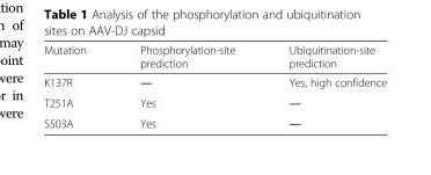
<table><thead><tr><td>Mutation</td><td>Phosphorylation-site prediction</td><td>Ubiquitination-site prediction</td></tr></thead><tbody><tr><td>K137R</td><td>―</td><td>Yes, high confidence</td></tr><tr><td>T251A</td><td>Yes</td><td>―</td></tr><tr><td>S503A</td><td>Yes</td><td>―</td></tr></tbody></table>